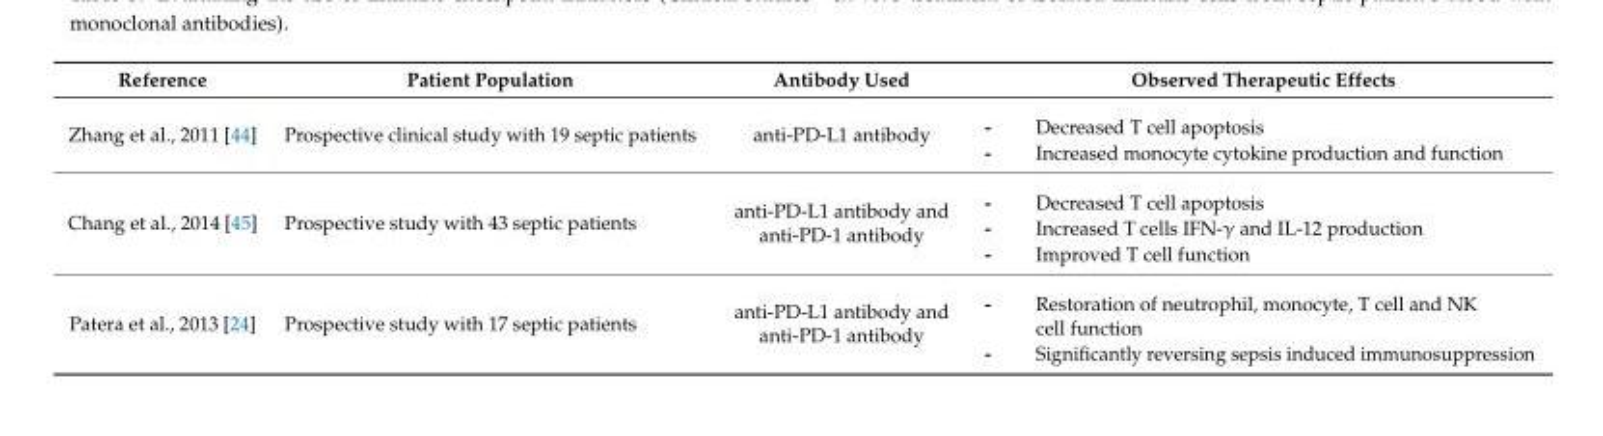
<table><thead><tr><td>Reference</td><td>Patient Population</td><td>Antibody Used</td><td>Observed Therapeutic Effects</td></tr></thead><tbody><tr><td>Zhang et al., 2011 [44]</td><td>Prospective clinical study with 19 septic patients</td><td>anti-PD-L1 antibody</td><td>- Decreased T cell apoptosis - Increased monocyte cytokine production and function</td></tr><tr><td>Chang et al., 2014 [45]</td><td>Prospective study with 43 septic patients</td><td>anti-PD-L1 antibody and anti-PD-1 antibody</td><td>- Decreased T cell apoptosis - Increased T cells IFN-γ and IL-12 production - Improved T cell function</td></tr><tr><td>Patera et al., 2013 [24]</td><td>Prospective study with 17 septic patients</td><td>anti-PD-L1 antibody and anti-PD-1 antibody</td><td>- Restoration of neutrophil, monocyte, T cell and NK cell function - Significantly reversing sepsis induced immunosuppression</td></tr></tbody></table>